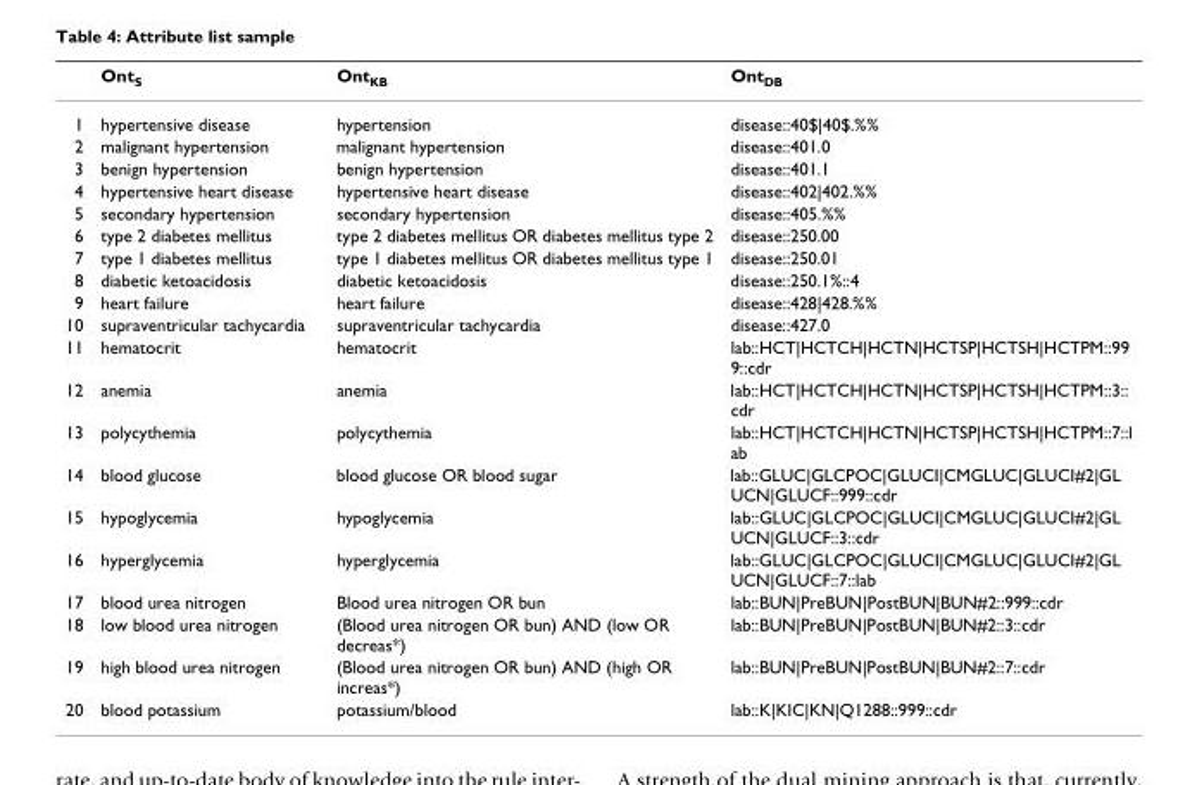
<table><thead><tr><td></td><td>Ont<sub>S</sub></td><td>Ont<sub>KB</sub></td><td>Ont<sub>DB</sub></td></tr></thead><tbody><tr><td>1</td><td>hypertensive disease</td><td>hypertension</td><td>disease::40$|40$.%%</td></tr><tr><td>2</td><td>malignant hypertension</td><td>malignant hypertension</td><td>disease::401.0</td></tr><tr><td>3</td><td>benign hypertension</td><td>benign hypertension</td><td>disease::401.1</td></tr><tr><td>4</td><td>hypertensive heart disease</td><td>hypertensive heart disease</td><td>disease::402|402.%%</td></tr><tr><td>5</td><td>secondary hypertension</td><td>secondary hypertension</td><td>disease::405.%%</td></tr><tr><td>6</td><td>type 2 diabetes mellitus</td><td>type 2 diabetes mellitus OR diabetes mellitus type 2</td><td>disease::250.00</td></tr><tr><td>7</td><td>type 1 diabetes mellitus</td><td>type 1 diabetes mellitus OR diabetes mellitus type 1</td><td>disease::250.01</td></tr><tr><td>8</td><td>diabetic ketoacidosis</td><td>diabetic ketoacidosis</td><td>disease::250.1%::4</td></tr><tr><td>9</td><td>heart failure</td><td>heart failure</td><td>disease::428|428.%%</td></tr><tr><td>10</td><td>supraventricular tachycardia</td><td>supraventricular tachycardia</td><td>disease::427.0</td></tr><tr><td>11</td><td>hematocrit</td><td>hematocrit</td><td>lab::HCT|HCTCH|HCTN|HCTSP|HCTSH|HCTPM::99 9::cdr</td></tr><tr><td>12</td><td>anemia</td><td>anemia</td><td>lab::HCT|HCTCH|HCTN|HCTSP|HCTSH|HCTPM::3:: cdr</td></tr><tr><td>13</td><td>polycythemia</td><td>polycythemia</td><td>lab::HCT|HCTCH|HCTN|HCTSP|HCTSH|HCTPM::7::l ab</td></tr><tr><td>14</td><td>blood glucose</td><td>blood glucose OR blood sugar</td><td>lab::GLUC|GLCPOC|GLUCI|CMGLUC|GLUCI#2|GL UCN|GLUCF::999::cdr</td></tr><tr><td>15</td><td>hypoglycemia</td><td>hypoglycemia</td><td>lab::GLUC|GLCPOC|GLUCI|CMGLUC|GLUCI#2|GL UCN|GLUCF::3::cdr</td></tr><tr><td>16</td><td>hyperglycemia</td><td>hyperglycemia</td><td>lab::GLUC|GLCPOC|GLUCI|CMGLUC|GLUCI#2|GL UCN|GLUCF::7::lab</td></tr><tr><td>17</td><td>blood urea nitrogen</td><td>Blood urea nitrogen OR bun</td><td>lab::BUN|PreBUN|PostBUN|BUN#2::999::cdr</td></tr><tr><td>18</td><td>low blood urea nitrogen</td><td>(Blood urea nitrogen OR bun) AND (low OR decreas*)</td><td>lab::BUN|PreBUN|PostBUN|BUN#2::3::cdr</td></tr><tr><td>19</td><td>high blood urea nitrogen</td><td>(Blood urea nitrogen OR bun) AND (high OR increas*)</td><td>lab::BUN|PreBUN|PostBUN|BUN#2::7::cdr</td></tr><tr><td>20</td><td>blood potassium</td><td>potassium/blood</td><td>lab::K|KIC|KN|Q1288::999::cdr</td></tr></tbody></table>